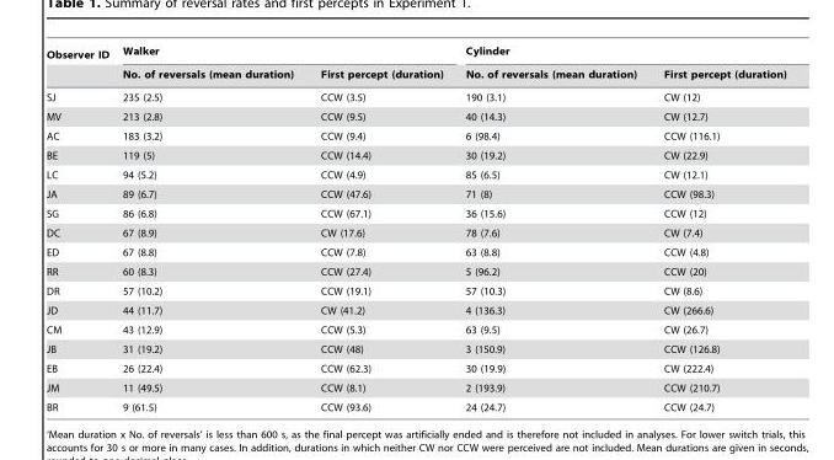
<table><thead><tr><td rowspan="2">Observer ID</td><td colspan="2">Walker</td><td colspan="2">Cylinder</td></tr><tr><td>No. of reversals (mean duration)</td><td>First percept (duration)</td><td>No. of reversals (mean duration)</td><td>First percept (duration)</td></tr></thead><tbody><tr><td>SJ</td><td>235 (2.5)</td><td>CCW (3.5)</td><td>190 (3.1)</td><td>CW (12)</td></tr><tr><td>MV</td><td>213 (2.8)</td><td>CCW (9.5)</td><td>40 (14.3)</td><td>CW (12.7)</td></tr><tr><td>AC</td><td>183 (3.2)</td><td>CCW (9.4)</td><td>6 (98.4)</td><td>CCW (116.1)</td></tr><tr><td>BE</td><td>119 (5)</td><td>CCW (14.4)</td><td>30 (19.2)</td><td>CW (22.9)</td></tr><tr><td>LC</td><td>94 (5.2)</td><td>CCW (4.9)</td><td>85 (6.5)</td><td>CW (12.1)</td></tr><tr><td>JA</td><td>89 (6.7)</td><td>CCW (47.6)</td><td>71 (8)</td><td>CCW (98.3)</td></tr><tr><td>SG</td><td>86 (6.8)</td><td>CCW (67.1)</td><td>36 (15.6)</td><td>CCW (12)</td></tr><tr><td>DC</td><td>67 (8.9)</td><td>CW (17.6)</td><td>78 (7.6)</td><td>CW (7.4)</td></tr><tr><td>ED</td><td>67 (8.8)</td><td>CCW (7.8)</td><td>63 (8.8)</td><td>CCW (4.8)</td></tr><tr><td>RR</td><td>60 (8.3)</td><td>CCW (27.4)</td><td>5 (96.2)</td><td>CCW (20)</td></tr><tr><td>DR</td><td>57 (10.2)</td><td>CCW (19.1)</td><td>57 (10.3)</td><td>CW (8.6)</td></tr><tr><td>JD</td><td>44 (11.7)</td><td>CW (41.2)</td><td>4 (136.3)</td><td>CW (266.6)</td></tr><tr><td>CM</td><td>43 (12.9)</td><td>CCW (5.3)</td><td>63 (9.5)</td><td>CW (26.7)</td></tr><tr><td>JB</td><td>31 (19.2)</td><td>CCW (48)</td><td>3 (150.9)</td><td>CCW (126.8)</td></tr><tr><td>EB</td><td>26 (22.4)</td><td>CCW (62.3)</td><td>30 (19.9)</td><td>CW (222.4)</td></tr><tr><td>JM</td><td>11 (49.5)</td><td>CCW (8.1)</td><td>2 (193.9)</td><td>CCW (210.7)</td></tr><tr><td>BR</td><td>9 (61.5)</td><td>CCW (93.6)</td><td>24 (24.7)</td><td>CCW (24.7)</td></tr></tbody></table>